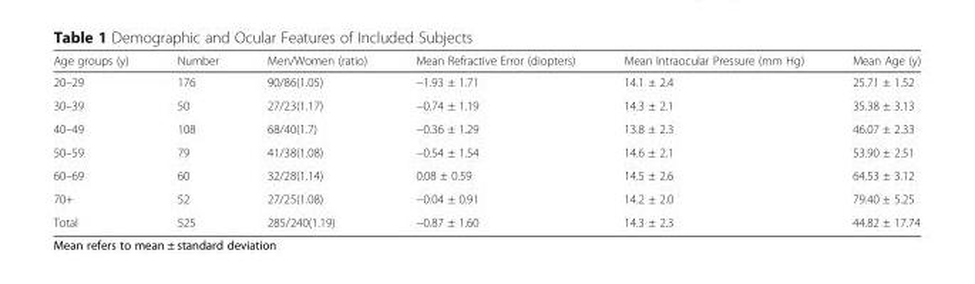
<table><thead><tr><td>Age groups (y)</td><td>Number</td><td>Men/Women (ratio)</td><td>Mean Refractive Error (diopters)</td><td>Mean Intraocular Pressure (mm Hg)</td><td>Mean Age (y)</td></tr></thead><tbody><tr><td>20–29</td><td>176</td><td>90/86(1.05)</td><td>−1.93 ± 1.71</td><td>14.1 ± 2.4</td><td>25.71 ± 1.52</td></tr><tr><td>30–39</td><td>50</td><td>27/23(1.17)</td><td>−0.74 ± 1.19</td><td>14.3 ± 2.1</td><td>35.38 ± 3.13</td></tr><tr><td>40–49</td><td>108</td><td>68/40(1.7)</td><td>−0.36 ± 1.29</td><td>13.8 ± 2.3</td><td>46.07 ± 2.33</td></tr><tr><td>50–59</td><td>79</td><td>41/38(1.08)</td><td>−0.54 ± 1.54</td><td>14.6 ± 2.1</td><td>53.90 ± 2.51</td></tr><tr><td>60–69</td><td>60</td><td>32/28(1.14)</td><td>0.08 ± 0.59</td><td>14.5 ± 2.6</td><td>64.53 ± 3.12</td></tr><tr><td>70+</td><td>52</td><td>27/25(1.08)</td><td>−0.04 ± 0.91</td><td>14.2 ± 2.0</td><td>79.40 ± 5.25</td></tr><tr><td>Total</td><td>525</td><td>285/240(1.19)</td><td>−0.87 ± 1.60</td><td>14.3 ± 2.3</td><td>44.82 ± 17.74</td></tr></tbody></table>